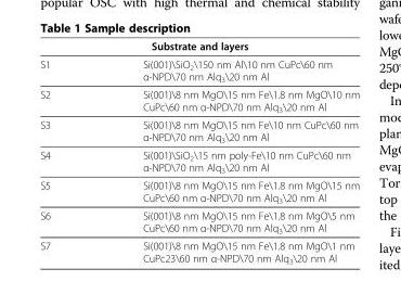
<table><thead><tr><td></td><td>Substrate and layers</td></tr></thead><tbody><tr><td>S1</td><td>Si(001)\SiO<sub>2</sub>\150 nm Al\10 nm CuPc\60 nm α-NPD\70 nm Alq<sub>3</sub>\20 nm Al</td></tr><tr><td>S2</td><td>Si(001)\8 nm MgO\15 nm Fe\1.8 nm MgO\10 nm CuPc\60 nm α-NPD\70 nm Alq<sub>3</sub>\20 nm Al</td></tr><tr><td>S3</td><td>Si(001)\8 nm MgO\15 nm Fe\10 nm CuPc\60 nm α-NPD\70 nm Alq<sub>3</sub>\20 nm Al</td></tr><tr><td>S4</td><td>Si(001)\SiO<sub>2</sub>\15 nm poly-Fe\10 nm CuPc\60 nm α-NPD\70 nm Alq<sub>3</sub>\20 nm Al</td></tr><tr><td>S5</td><td>Si(001)\8 nm MgO\15 nm Fe\1.8 nm MgO\15 nm CuPc\60 nm α-NPD\70 nm Alq<sub>3</sub>\20 nm Al</td></tr><tr><td>S6</td><td>Si(001)\8 nm MgO\15 nm Fe\1.8 nm MgO\5 nm CuPc\60 nm α-NPD\70 nm Alq<sub>3</sub>\20 nm Al</td></tr><tr><td>S7</td><td>Si(001)\8 nm MgO\15 nm Fe\1.8 nm MgO\1 nm CuPc23\60 nm α-NPD\70 nm Alq<sub>3</sub>\20 nm Al</td></tr></tbody></table>